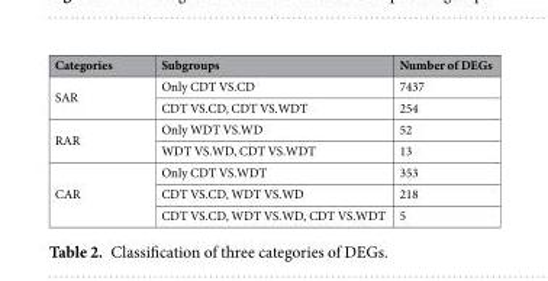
<table><thead><tr><td>Categories</td><td>Subgroups</td><td>Number of DEGs</td></tr></thead><tbody><tr><td rowspan="2">SAR</td><td>Only CDT VS.CD</td><td>7437</td></tr><tr><td>CDT VS.CD, CDT VS.WDT</td><td>254</td></tr><tr><td rowspan="2">RAR</td><td>Only WDT VS.WD</td><td>52</td></tr><tr><td>WDT VS.WD, CDT VS.WDT</td><td>13</td></tr><tr><td rowspan="3">CAR</td><td>Only CDT VS.WDT</td><td>353</td></tr><tr><td>CDT VS.CD, WDT VS.WD</td><td>218</td></tr><tr><td>CDT VS.CD, WDT VS.WD, CDT VS.WDT</td><td>5</td></tr></tbody></table>